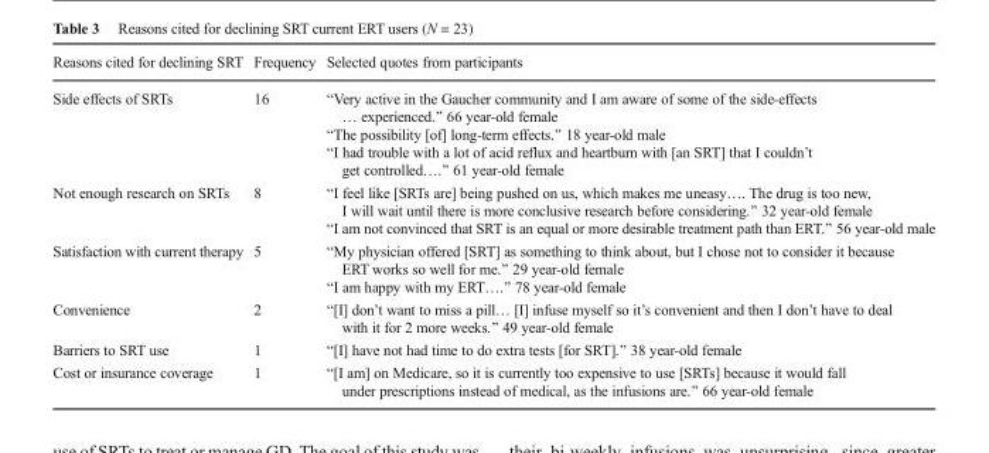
<table><thead><tr><td>Reasons cited for declining SRT</td><td>Frequency</td><td>Selected quotes from participants</td></tr></thead><tbody><tr><td>Side effects of SRTs</td><td>16</td><td>“Very active in the Gaucher community and I am aware of some of the side-effects … experienced.” 66 year-old female “The possibility [of] long-term effects.” 18 year-old male “I had trouble with a lot of acid reflux and heartburn with [an SRT] that I couldn’t get controlled….” 61 year-old female</td></tr><tr><td>Not enough research on SRTs</td><td>8</td><td>“I feel like [SRTs are] being pushed on us, which makes me uneasy…. The drug is too new, I will wait until there is more conclusive research before considering.” 32 year-old female “I am not convinced that SRT is an equal or more desirable treatment path than ERT.” 56 year-old male</td></tr><tr><td>Satisfaction with current therapy</td><td>5</td><td>“My physician offered [SRT] as something to think about, but I chose not to consider it because ERT works so well for me.” 29 year-old female “I am happy with my ERT….” 78 year-old female</td></tr><tr><td>Convenience</td><td>2</td><td>“[I] don’t want to miss a pill… [I] infuse myself so it’s convenient and then I don’t have to deal with it for 2 more weeks.” 49 year-old female</td></tr><tr><td>Barriers to SRT use</td><td>1</td><td>“[I] have not had time to do extra tests [for SRT].” 38 year-old female</td></tr><tr><td>Cost or insurance coverage</td><td>1</td><td>“[I am] on Medicare, so it is currently too expensive to use [SRTs] because it would fall under prescriptions instead of medical, as the infusions are.” 66 year-old female</td></tr></tbody></table>